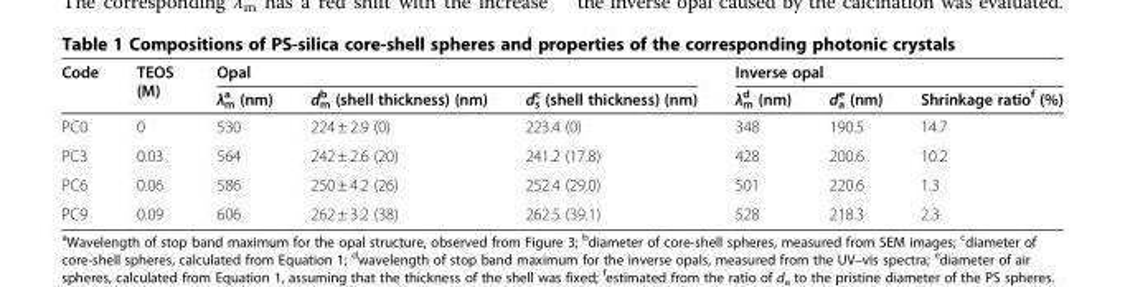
<table><thead><tr><td rowspan="2">Code</td><td rowspan="2">TEOS (M)</td><td colspan="3">Opal</td><td colspan="3">Inverse opal</td></tr><tr><td>λ<sub>m</sub> <sup>a</sup> (nm)</td><td>d<sub>m</sub> <sup>b</sup> (shell thickness) (nm)</td><td>d<sub>s</sub> <sup>c</sup> (shell thickness) (nm)</td><td>λ<sub>m</sub> <sup>d</sup> (nm)</td><td>d<sub>a</sub> <sup>e</sup> (nm)</td><td>Shrinkage ratio<sup>f</sup> (%)</td></tr></thead><tbody><tr><td>PC0</td><td>0</td><td>530</td><td>224 ± 2.9 (0)</td><td>223.4 (0)</td><td>348</td><td>190.5</td><td>14.7</td></tr><tr><td>PC3</td><td>0.03</td><td>564</td><td>242 ± 2.6 (20)</td><td>241.2 (17.8)</td><td>428</td><td>200.6</td><td>10.2</td></tr><tr><td>PC6</td><td>0.06</td><td>586</td><td>250 ± 4.2 (26)</td><td>252.4 (29.0)</td><td>501</td><td>220.6</td><td>1.3</td></tr><tr><td>PC9</td><td>0.09</td><td>606</td><td>262 ± 3.2 (38)</td><td>262.5 (39.1)</td><td>528</td><td>218.3</td><td>2.3</td></tr></tbody></table>